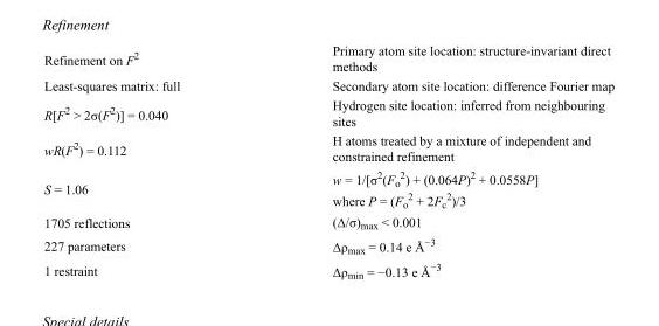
<table><tbody><tr><td>Refinement on F<sup>2</sup></td><td>Primary atom site location: structure-invariant direct methods</td></tr><tr><td>Least-squares matrix: full</td><td>Secondary atom site location: difference Fourier map</td></tr><tr><td>R[F<sup>2</sup> &gt; 2σ(F<sup>2</sup>)] = 0.040</td><td>Hydrogen site location: inferred from neighbouring sites</td></tr><tr><td>wR(F<sup>2</sup>) = 0.112</td><td>H atoms treated by a mixture of independent and constrained refinement</td></tr><tr><td>S = 1.06</td><td>w = 1/[σ<sup>2</sup>(F<sub>o</sub> <sup>2</sup>) + (0.064P)<sup>2</sup> + 0.0558P] where P = (F<sub>o</sub> <sup>2</sup> + 2F<sub>c</sub> <sup>2</sup>)/3</td></tr><tr><td>1705 reflections</td><td>(Δ/σ)<sub>max</sub> &lt; 0.001</td></tr><tr><td>227 parameters</td><td>Δρ<sub>max</sub> = 0.14 e Å<sup>−3</sup></td></tr><tr><td>1 restraint</td><td>Δρ<sub>min</sub> = −0.13 e Å<sup>−3</sup></td></tr></tbody></table>